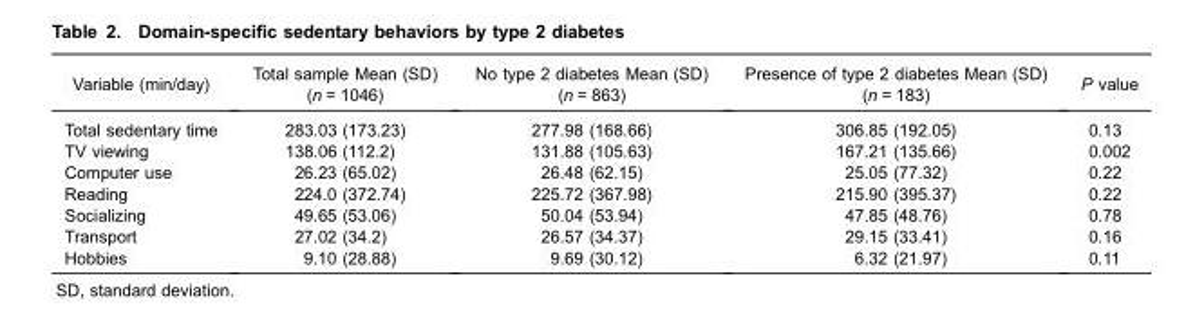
<table><thead><tr><td>Variable (min/day)</td><td>Total sample Mean (SD) (n = 1046)</td><td>No type 2 diabetes Mean (SD) (n = 863)</td><td>Presence of type 2 diabetes Mean (SD) (n = 183)</td><td>P value</td></tr></thead><tbody><tr><td>Total sedentary time</td><td>283.03 (173.23)</td><td>277.98 (168.66)</td><td>306.85 (192.05)</td><td>0.13</td></tr><tr><td>TV viewing</td><td>138.06 (112.2)</td><td>131.88 (105.63)</td><td>167.21 (135.66)</td><td>0.002</td></tr><tr><td>Computer use</td><td>26.23 (65.02)</td><td>26.48 (62.15)</td><td>25.05 (77.32)</td><td>0.22</td></tr><tr><td>Reading</td><td>224.0 (372.74)</td><td>225.72 (367.98)</td><td>215.90 (395.37)</td><td>0.22</td></tr><tr><td>Socializing</td><td>49.65 (53.06)</td><td>50.04 (53.94)</td><td>47.85 (48.76)</td><td>0.78</td></tr><tr><td>Transport</td><td>27.02 (34.2)</td><td>26.57 (34.37)</td><td>29.15 (33.41)</td><td>0.16</td></tr><tr><td>Hobbies</td><td>9.10 (28.88)</td><td>9.69 (30.12)</td><td>6.32 (21.97)</td><td>0.11</td></tr></tbody></table>